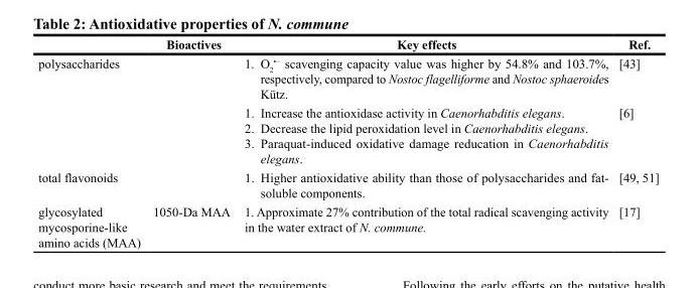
<table><thead><tr><td></td><td>Bioactives</td><td>Key effects</td><td>Ref.</td></tr></thead><tbody><tr><td rowspan="2">polysaccharides</td><td></td><td>1. O2 •− scavenging capacity value was higher by 54.8% and 103.7%, respectively, compared to Nostoc flagelliforme and Nostoc sphaeroides Kütz.</td><td>[43]</td></tr><tr><td></td><td>1. Increase the antioxidase activity in Caenorhabditis elegans. 2. Decrease the lipid peroxidation level in Caenorhabditis elegans. 3. Paraquat-induced oxidative damage reducation in Caenorhabditis elegans.</td><td>[6]</td></tr><tr><td>total flavonoids</td><td></td><td>1. Higher antioxidative ability than those of polysaccharides and fat- soluble components.</td><td>[49, 51]</td></tr><tr><td>glycosylated mycosporine-like amino acids (MAA)</td><td>1050-Da MAA</td><td>1. Approximate 27% contribution of the total radical scavenging activity in the water extract of N. commune.</td><td>[17]</td></tr></tbody></table>